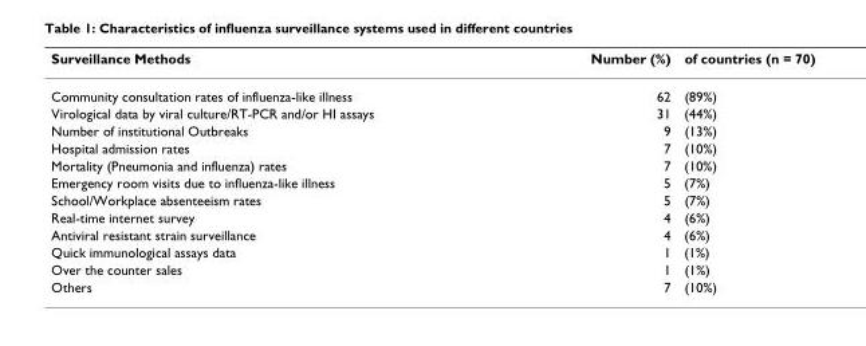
<table><thead><tr><td>Surveillance Methods</td><td>Number (%)</td><td>of countries (n = 70)</td></tr></thead><tbody><tr><td>Community consultation rates of influenza-like illness</td><td>62</td><td>(89%)</td></tr><tr><td>Virological data by viral culture/RT-PCR and/or HI assays</td><td>31</td><td>(44%)</td></tr><tr><td>Number of institutional Outbreaks</td><td>9</td><td>(13%)</td></tr><tr><td>Hospital admission rates</td><td>7</td><td>(10%)</td></tr><tr><td>Mortality (Pneumonia and influenza) rates</td><td>7</td><td>(10%)</td></tr><tr><td>Emergency room visits due to influenza-like illness</td><td>5</td><td>(7%)</td></tr><tr><td>School/Workplace absenteeism rates</td><td>5</td><td>(7%)</td></tr><tr><td>Real-time internet survey</td><td>4</td><td>(6%)</td></tr><tr><td>Antiviral resistant strain surveillance</td><td>4</td><td>(6%)</td></tr><tr><td>Quick immunological assays data</td><td>1</td><td>(1%)</td></tr><tr><td>Over the counter sales</td><td>1</td><td>(1%)</td></tr><tr><td>Others</td><td>7</td><td>(10%)</td></tr></tbody></table>